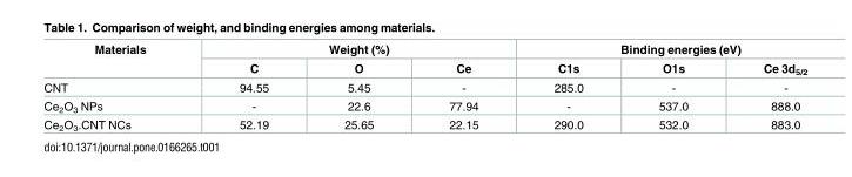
<table><thead><tr><td rowspan="2">Materials</td><td colspan="3">Weight (%)</td><td colspan="3">Binding energies (eV)</td></tr><tr><td>C</td><td>O</td><td>Ce</td><td>C1s</td><td>O1s</td><td>Ce 3d<sub>5/2</sub></td></tr></thead><tbody><tr><td>CNT</td><td>94.55</td><td>5.45</td><td>-</td><td>285.0</td><td>-</td><td>-</td></tr><tr><td>Ce<sub>2</sub>O<sub>3</sub> NPs</td><td>-</td><td>22.6</td><td>77.94</td><td>-</td><td>537.0</td><td>888.0</td></tr><tr><td>Ce<sub>2</sub>O<sub>3</sub>.CNT NCs</td><td>52.19</td><td>25.65</td><td>22.15</td><td>290.0</td><td>532.0</td><td>883.0</td></tr></tbody></table>